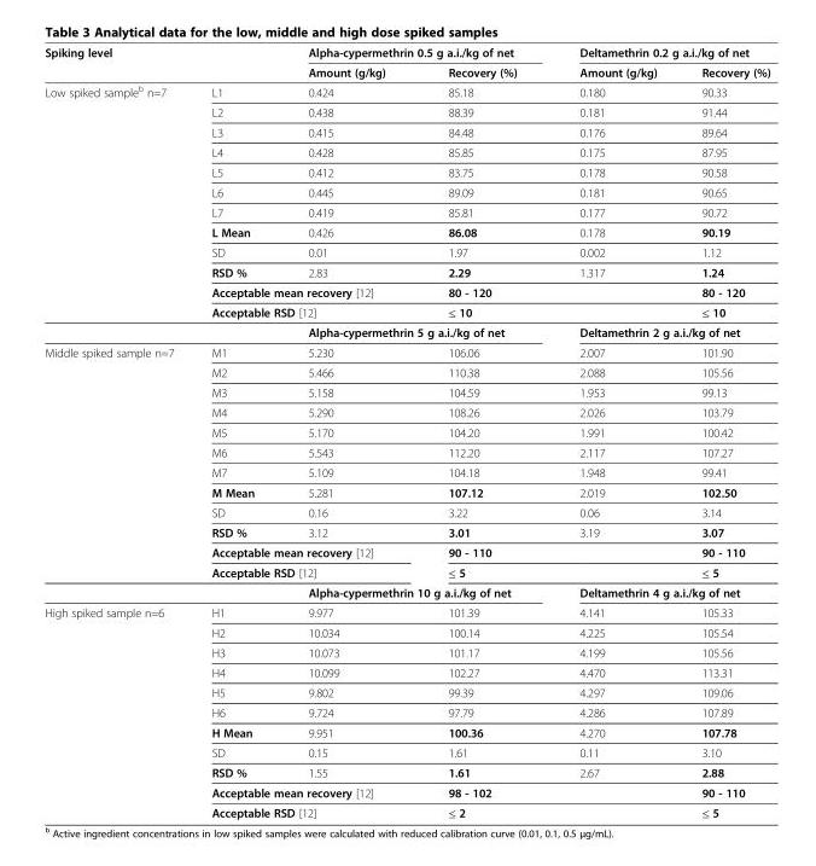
<table><thead><tr><td rowspan="2">Spiking level</td><td rowspan="2"></td><td colspan="2">Alpha-cypermethrin 0.5 g a.i./kg of net</td><td colspan="2">Deltamethrin 0.2 g a.i./kg of net</td></tr><tr><td>Amount (g/kg)</td><td>Recovery (%)</td><td>Amount (g/kg)</td><td>Recovery (%)</td></tr></thead><tbody><tr><td rowspan="13">Low spiked sample<sup>b</sup> n=7</td><td>L1</td><td>0.424</td><td>85.18</td><td>0.180</td><td>90.33</td></tr><tr><td>L2</td><td>0.438</td><td>88.39</td><td>0.181</td><td>91.44</td></tr><tr><td>L3</td><td>0.415</td><td>84.48</td><td>0.176</td><td>89.64</td></tr><tr><td>L4</td><td>0.428</td><td>85.85</td><td>0.175</td><td>87.95</td></tr><tr><td>L5</td><td>0.412</td><td>83.75</td><td>0.178</td><td>90.58</td></tr><tr><td>L6</td><td>0.445</td><td>89.09</td><td>0.181</td><td>90.65</td></tr><tr><td>L7</td><td>0.419</td><td>85.81</td><td>0.177</td><td>90.72</td></tr><tr><td>L Mean</td><td>0.426</td><td>86.08</td><td>0.178</td><td>90.19</td></tr><tr><td>SD</td><td>0.01</td><td>1.97</td><td>0.002</td><td>1.12</td></tr><tr><td>RSD %</td><td>2.83</td><td>2.29</td><td>1.317</td><td>1.24</td></tr><tr><td colspan="2">Acceptable mean recovery [12]</td><td>80 - 120</td><td></td><td>80 - 120</td></tr><tr><td colspan="2">Acceptable RSD [12]</td><td>≤ 10</td><td></td><td>≤ 10</td></tr><tr><td></td><td colspan="2">Alpha-cypermethrin 5 g a.i./kg of net</td><td colspan="2">Deltamethrin 2 g a.i./kg of net</td></tr><tr><td rowspan="13">Middle spiked sample n=7</td><td>M1</td><td>5.230</td><td>106.06</td><td>2.007</td><td>101.90</td></tr><tr><td>M2</td><td>5.466</td><td>110.38</td><td>2.088</td><td>105.56</td></tr><tr><td>M3</td><td>5.158</td><td>104.59</td><td>1.953</td><td>99.13</td></tr><tr><td>M4</td><td>5.290</td><td>108.26</td><td>2.026</td><td>103.79</td></tr><tr><td>M5</td><td>5.170</td><td>104.20</td><td>1.991</td><td>100.42</td></tr><tr><td>M6</td><td>5.543</td><td>112.20</td><td>2.117</td><td>107.27</td></tr><tr><td>M7</td><td>5.109</td><td>104.18</td><td>1.948</td><td>99.41</td></tr><tr><td>M Mean</td><td>5.281</td><td>107.12</td><td>2.019</td><td>102.50</td></tr><tr><td>SD</td><td>0.16</td><td>3.22</td><td>0.06</td><td>3.14</td></tr><tr><td>RSD %</td><td>3.12</td><td>3.01</td><td>3.19</td><td>3.07</td></tr><tr><td colspan="2">Acceptable mean recovery [12]</td><td>90 - 110</td><td></td><td>90 - 110</td></tr><tr><td colspan="2">Acceptable RSD [12]</td><td>≤ 5</td><td></td><td>≤ 5</td></tr><tr><td></td><td colspan="2">Alpha-cypermethrin 10 g a.i./kg of net</td><td colspan="2">Deltamethrin 4 g a.i./kg of net</td></tr><tr><td rowspan="11">High spiked sample n=6</td><td>H1</td><td>9.977</td><td>101.39</td><td>4.141</td><td>105.33</td></tr><tr><td>H2</td><td>10.034</td><td>100.14</td><td>4.225</td><td>105.54</td></tr><tr><td>H3</td><td>10.073</td><td>101.17</td><td>4.199</td><td>105.56</td></tr><tr><td>H4</td><td>10.099</td><td>102.27</td><td>4.470</td><td>113.31</td></tr><tr><td>H5</td><td>9.802</td><td>99.39</td><td>4.297</td><td>109.06</td></tr><tr><td>H6</td><td>9.724</td><td>97.79</td><td>4.286</td><td>107.89</td></tr><tr><td>H Mean</td><td>9.951</td><td>100.36</td><td>4.270</td><td>107.78</td></tr><tr><td>SD</td><td>0.15</td><td>1.61</td><td>0.11</td><td>3.10</td></tr><tr><td>RSD %</td><td>1.55</td><td>1.61</td><td>2.67</td><td>2.88</td></tr><tr><td colspan="2">Acceptable mean recovery [12]</td><td>98 - 102</td><td></td><td>90 - 110</td></tr><tr><td colspan="2">Acceptable RSD [12]</td><td>≤ 2</td><td></td><td>≤ 5</td></tr></tbody></table>